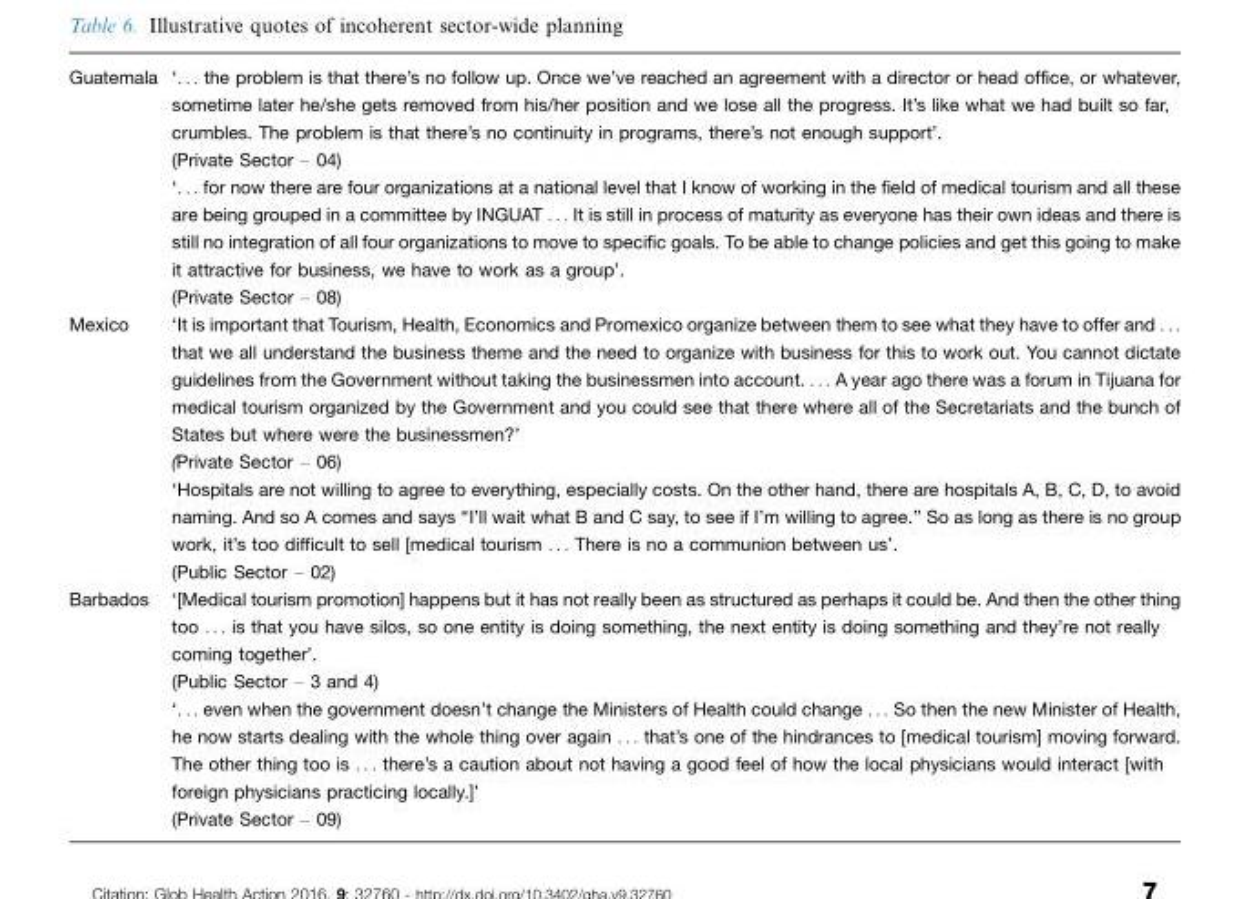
<table><tbody><tr><td>Guatemala</td><td>‘. . . the problem is that there’s no follow up. Once we’ve reached an agreement with a director or head office, or whatever, sometime later he/she gets removed from his/her position and we lose all the progress. It’s like what we had built so far, crumbles. The problem is that there’s no continuity in programs, there’s not enough support’. (Private Sector � 04) ‘. . . for now there are four organizations at a national level that I know of working in the field of medical tourism and all these are being grouped in a committee by INGUAT . . . It is still in process of maturity as everyone has their own ideas and there is still no integration of all four organizations to move to specific goals. To be able to change policies and get this going to make it attractive for business, we have to work as a group’. (Private Sector � 08)</td></tr><tr><td>Mexico</td><td>‘It is important that Tourism, Health, Economics and Promexico organize between them to see what they have to offer and . . . that we all understand the business theme and the need to organize with business for this to work out. You cannot dictate guidelines from the Government without taking the businessmen into account. . . . A year ago there was a forum in Tijuana for medical tourism organized by the Government and you could see that there where all of the Secretariats and the bunch of States but where were the businessmen?’ (Private Sector � 06) ‘Hospitals are not willing to agree to everything, especially costs. On the other hand, there are hospitals A, B, C, D, to avoid naming. And so A comes and says ‘‘I’ll wait what B and C say, to see if I’m willing to agree.’’ So as long as there is no group work, it’s too difficult to sell [medical tourism . . . There is no a communion between us’. (Public Sector � 02)</td></tr><tr><td>Barbados</td><td>‘[Medical tourism promotion] happens but it has not really been as structured as perhaps it could be. And then the other thing too . . . is that you have silos, so one entity is doing something, the next entity is doing something and they’re not really coming together’. (Public Sector � 3 and 4) ‘. . . even when the government doesn’t change the Ministers of Health could change . . . So then the new Minister of Health, he now starts dealing with the whole thing over again . . . that’s one of the hindrances to [medical tourism] moving forward. The other thing too is . . . there’s a caution about not having a good feel of how the local physicians would interact [with foreign physicians practicing locally.]’ (Private Sector � 09)</td></tr></tbody></table>